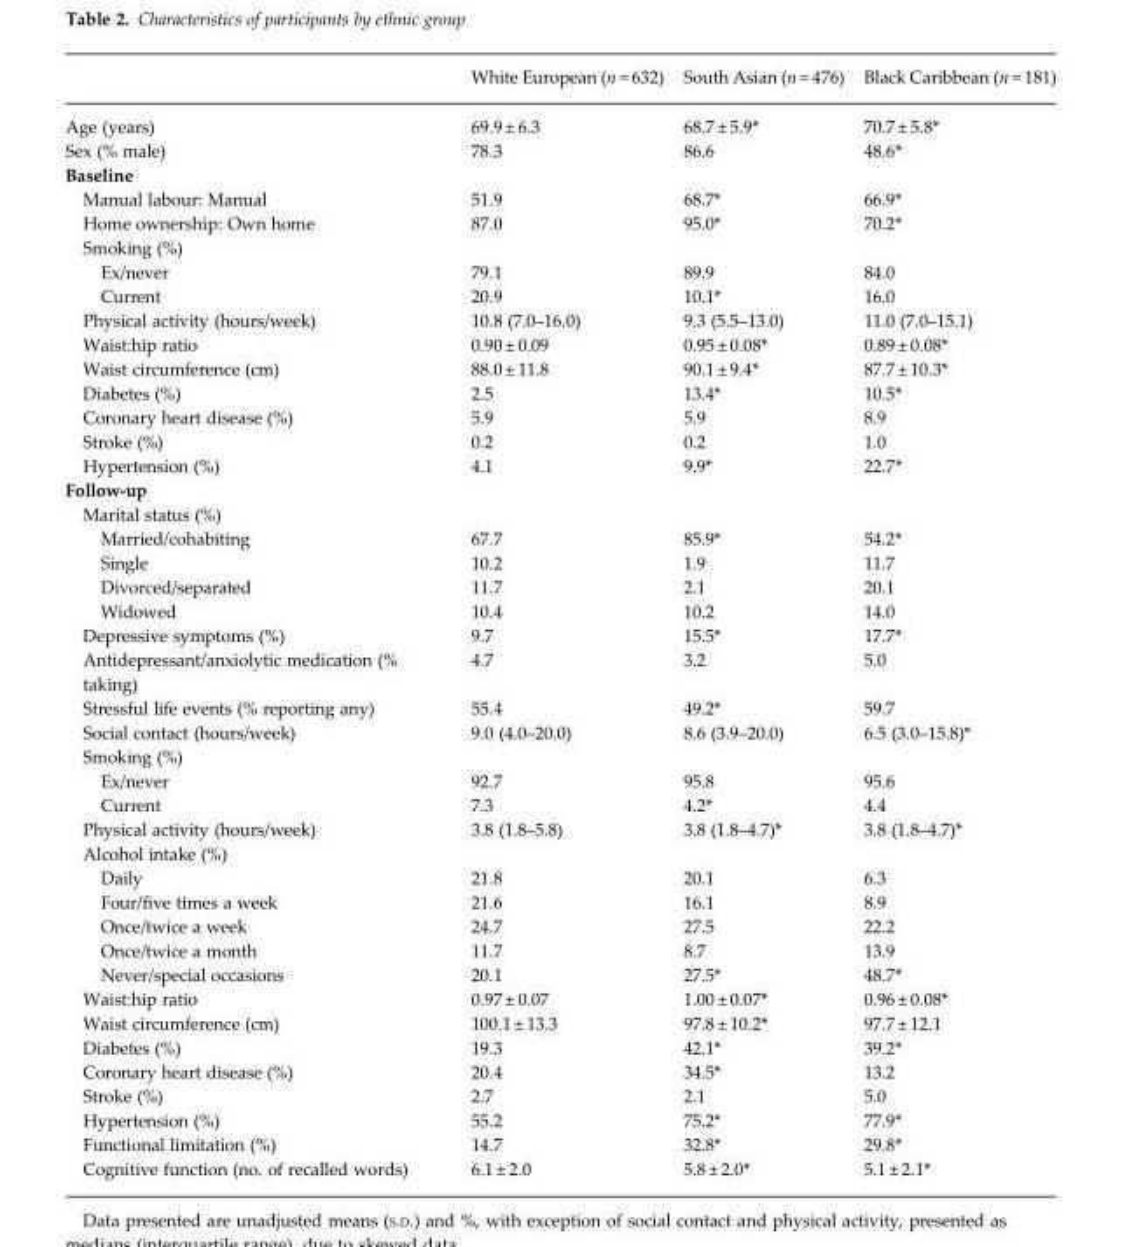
<table><thead><tr><td></td><td>White European (n = 632)</td><td>South Asian (n = 476)</td><td>Black Caribbean (n = 181)</td></tr></thead><tbody><tr><td>Age (years)</td><td>69.9 ± 6.3</td><td>68.7 ± 5.9*</td><td>70.7 ± 5.8*</td></tr><tr><td>Sex (% male)</td><td>78.3</td><td>86.6</td><td>48.6*</td></tr><tr><td colspan="4">Baseline</td></tr><tr><td>Manual labour: Manual</td><td>51.9</td><td>68.7*</td><td>66.9*</td></tr><tr><td>Home ownership: Own home</td><td>87.0</td><td>95.0*</td><td>70.2*</td></tr><tr><td colspan="4">Smoking (%)</td></tr><tr><td>Ex/never</td><td>79.1</td><td>89.9</td><td>84.0</td></tr><tr><td>Current</td><td>20.9</td><td>10.1*</td><td>16.0</td></tr><tr><td>Physical activity (hours/week)</td><td>10.8 (7.0–16.0)</td><td>9.3 (5.5–13.0)</td><td>11.0 (7.0–15.1)</td></tr><tr><td>Waist:hip ratio</td><td>0.90 ± 0.09</td><td>0.95 ± 0.08*</td><td>0.89 ± 0.08*</td></tr><tr><td>Waist circumference (cm)</td><td>88.0 ± 11.8</td><td>90.1 ± 9.4*</td><td>87.7 ± 10.3*</td></tr><tr><td>Diabetes (%)</td><td>2.5</td><td>13.4*</td><td>10.5*</td></tr><tr><td>Coronary heart disease (%)</td><td>5.9</td><td>5.9</td><td>8.9</td></tr><tr><td>Stroke (%)</td><td>0.2</td><td>0.2</td><td>1.0</td></tr><tr><td>Hypertension (%)</td><td>4.1</td><td>9.9*</td><td>22.7*</td></tr><tr><td colspan="4">Follow-up</td></tr><tr><td colspan="4">Marital status (%)</td></tr><tr><td>Married/cohabiting</td><td>67.7</td><td>85.9*</td><td>54.2*</td></tr><tr><td>Single</td><td>10.2</td><td>1.9</td><td>11.7</td></tr><tr><td>Divorced/separated</td><td>11.7</td><td>2.1</td><td>20.1</td></tr><tr><td>Widowed</td><td>10.4</td><td>10.2</td><td>14.0</td></tr><tr><td>Depressive symptoms (%)</td><td>9.7</td><td>15.5*</td><td>17.7*</td></tr><tr><td>Antidepressant/anxiolytic medication (% taking)</td><td>4.7</td><td>3.2</td><td>5.0</td></tr><tr><td>Stressful life events (% reporting any)</td><td>55.4</td><td>49.2*</td><td>59.7</td></tr><tr><td>Social contact (hours/week)</td><td>9.0 (4.0–20.0)</td><td>8.6 (3.9–20.0)</td><td>6.5 (3.0–15.8)*</td></tr><tr><td colspan="4">Smoking (%)</td></tr><tr><td>Ex/never</td><td>92.7</td><td>95.8</td><td>95.6</td></tr><tr><td>Current</td><td>7.3</td><td>4.2*</td><td>4.4</td></tr><tr><td>Physical activity (hours/week)</td><td>3.8 (1.8–5.8)</td><td>3.8 (1.8–4.7)*</td><td>3.8 (1.8–4.7)*</td></tr><tr><td colspan="4">Alcohol intake (%)</td></tr><tr><td>Daily</td><td>21.8</td><td>20.1</td><td>6.3</td></tr><tr><td>Four/five times a week</td><td>21.6</td><td>16.1</td><td>8.9</td></tr><tr><td>Once/twice a week</td><td>24.7</td><td>27.5</td><td>22.2</td></tr><tr><td>Once/twice a month</td><td>11.7</td><td>8.7</td><td>13.9</td></tr><tr><td>Never/special occasions</td><td>20.1</td><td>27.5*</td><td>48.7*</td></tr><tr><td>Waist:hip ratio</td><td>0.97 ± 0.07</td><td>1.00 ± 0.07*</td><td>0.96 ± 0.08*</td></tr><tr><td>Waist circumference (cm)</td><td>100.1 ± 13.3</td><td>97.8 ± 10.2*</td><td>97.7 ± 12.1</td></tr><tr><td>Diabetes (%)</td><td>19.3</td><td>42.1*</td><td>39.2*</td></tr><tr><td>Coronary heart disease (%)</td><td>20.4</td><td>34.5*</td><td>13.2</td></tr><tr><td>Stroke (%)</td><td>2.7</td><td>2.1</td><td>5.0</td></tr><tr><td>Hypertension (%)</td><td>55.2</td><td>75.2*</td><td>77.9*</td></tr><tr><td>Functional limitation (%)</td><td>14.7</td><td>32.8*</td><td>29.8*</td></tr><tr><td>Cognitive function (no. of recalled words)</td><td>6.1 ± 2.0</td><td>5.8 ± 2.0*</td><td>5.1 ± 2.1*</td></tr></tbody></table>